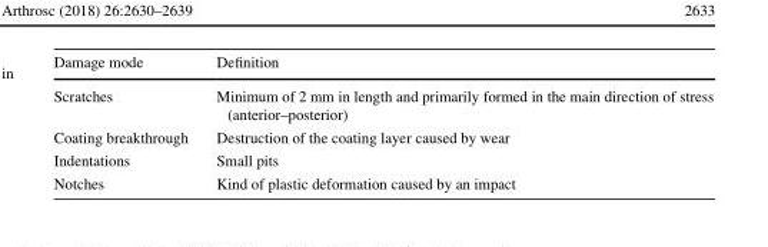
<table><thead><tr><td>Damage mode</td><td>Definition</td></tr></thead><tbody><tr><td>Scratches</td><td>Minimum of 2 mm in length and primarily formed in the main direction of stress (anterior–posterior)</td></tr><tr><td>Coating breakthrough</td><td>Destruction of the coating layer caused by wear</td></tr><tr><td>Indentations</td><td>Small pits</td></tr><tr><td>Notches</td><td>Kind of plastic deformation caused by an impact</td></tr></tbody></table>